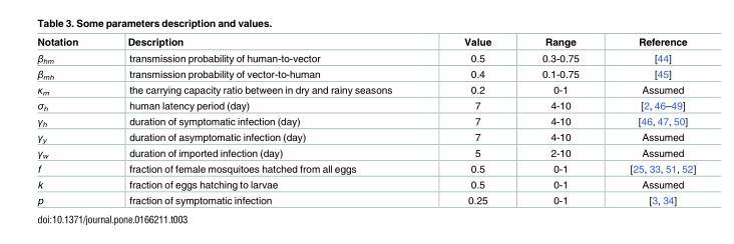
<table><thead><tr><td>Notation</td><td>Description</td><td>Value</td><td>Range</td><td>Reference</td></tr></thead><tbody><tr><td>β<sub>hm</sub></td><td>transmission probability of human-to-vector</td><td>0.5</td><td>0.3-0.75</td><td>[44]</td></tr><tr><td>β<sub>mh</sub></td><td>transmission probability of vector-to-human</td><td>0.4</td><td>0.1-0.75</td><td>[45]</td></tr><tr><td>κ<sub>m</sub></td><td>the carrying capacity ratio between in dry and rainy seasons</td><td>0.2</td><td>0-1</td><td>Assumed</td></tr><tr><td>σ<sub>h</sub></td><td>human latency period (day)</td><td>7</td><td>4-10</td><td>[2, 46–49]</td></tr><tr><td>γ<sub>h</sub></td><td>duration of symptomatic infection (day)</td><td>7</td><td>4-10</td><td>[46, 47, 50]</td></tr><tr><td>γ<sub>y</sub></td><td>duration of asymptomatic infection (day)</td><td>7</td><td>4-10</td><td>Assumed</td></tr><tr><td>γ<sub>w</sub></td><td>duration of imported infection (day)</td><td>5</td><td>2-10</td><td>Assumed</td></tr><tr><td>f</td><td>fraction of female mosquitoes hatched from all eggs</td><td>0.5</td><td>0-1</td><td>[25, 33, 51, 52]</td></tr><tr><td>k</td><td>fraction of eggs hatching to larvae</td><td>0.5</td><td>0-1</td><td>Assumed</td></tr><tr><td>p</td><td>fraction of symptomatic infection</td><td>0.25</td><td>0-1</td><td>[3, 34]</td></tr></tbody></table>